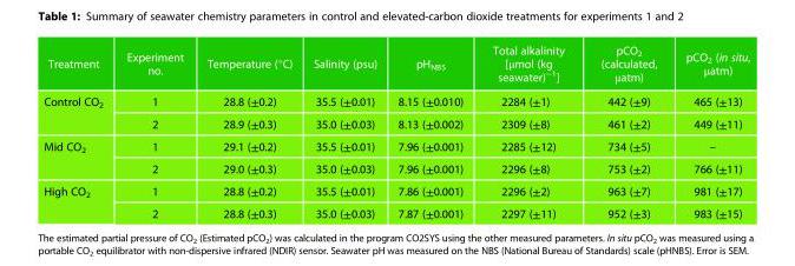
<table><thead><tr><td>Treatment</td><td>Experiment no.</td><td>Temperature (°C)</td><td>Salinity (psu)</td><td>pH<sub>NBS</sub></td><td>Total alkalinity [μmol (kg seawater)<sup>−1</sup>]</td><td>pCO<sub>2</sub> (calculated, μatm)</td><td>pCO<sub>2</sub> (in situ, μatm)</td></tr></thead><tbody><tr><td rowspan="2">Control CO<sub>2</sub></td><td>1</td><td>28.8 (±0.2)</td><td>35.5 (±0.01)</td><td>8.15 (±0.010)</td><td>2284 (±1)</td><td>442 (±9)</td><td>465 (±13)</td></tr><tr><td>2</td><td>28.9 (±0.3)</td><td>35.0 (±0.03)</td><td>8.13 (±0.002)</td><td>2309 (±8)</td><td>461 (±2)</td><td>449 (±11)</td></tr><tr><td rowspan="2">Mid CO<sub>2</sub></td><td>1</td><td>29.1 (±0.2)</td><td>35.5 (±0.01)</td><td>7.96 (±0.001)</td><td>2285 (±12)</td><td>734 (±5)</td><td>–</td></tr><tr><td>2</td><td>29.0 (±0.3)</td><td>35.0 (±0.03)</td><td>7.96 (±0.001)</td><td>2296 (±8)</td><td>753 (±2)</td><td>766 (±11)</td></tr><tr><td rowspan="2">High CO<sub>2</sub></td><td>1</td><td>28.8 (±0.2)</td><td>35.5 (±0.01)</td><td>7.86 (±0.001)</td><td>2296 (±2)</td><td>963 (±7)</td><td>981 (±17)</td></tr><tr><td>2</td><td>28.8 (±0.3)</td><td>35.0 (±0.03)</td><td>7.87 (±0.001)</td><td>2297 (±11)</td><td>952 (±3)</td><td>983 (±15)</td></tr></tbody></table>